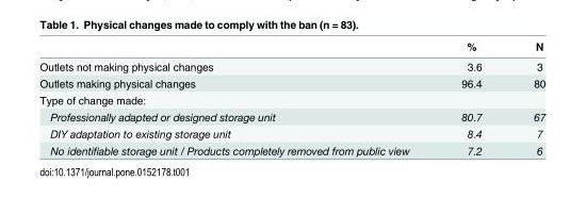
<table><thead><tr><td></td><td>%</td><td>N</td></tr></thead><tbody><tr><td>Outlets not making physical changes</td><td>3.6</td><td>3</td></tr><tr><td>Outlets making physical changes</td><td>96.4</td><td>80</td></tr><tr><td colspan="3">Type of change made:</td></tr><tr><td>Professionally adapted or designed storage unit</td><td>80.7</td><td>67</td></tr><tr><td>DIY adaptation to existing storage unit</td><td>8.4</td><td>7</td></tr><tr><td>No identifiable storage unit / Products completely removed from public view</td><td>7.2</td><td>6</td></tr></tbody></table>